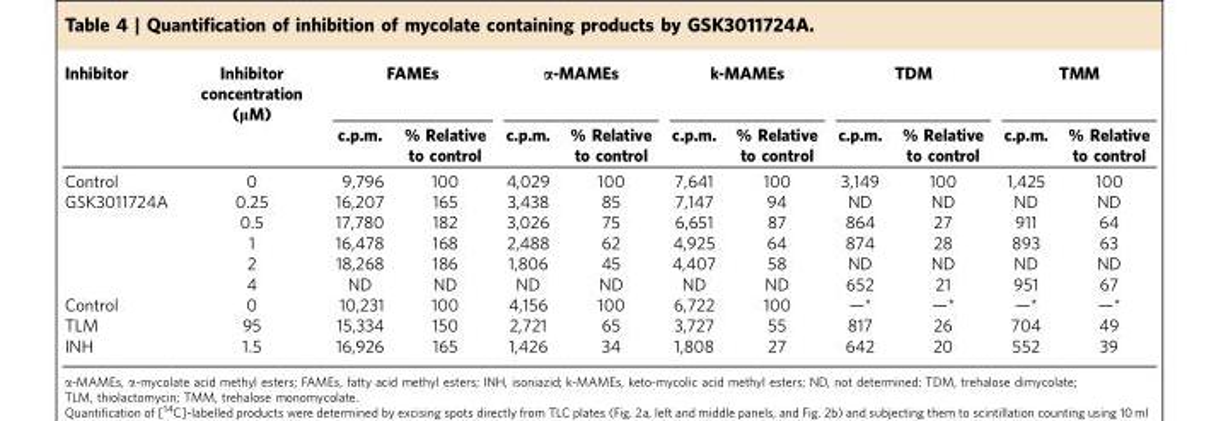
<table><thead><tr><td rowspan="2">Inhibitor</td><td rowspan="2">Inhibitor concentration (μM)</td><td colspan="2">FAMEs</td><td colspan="2">α-MAMEs</td><td colspan="2">k-MAMEs</td><td colspan="2">TDM</td><td colspan="2">TMM</td></tr><tr><td>c.p.m.</td><td>% Relative to control</td><td>c.p.m.</td><td>% Relative to control</td><td>c.p.m.</td><td>% Relative to control</td><td>c.p.m.</td><td>% Relative to control</td><td>c.p.m.</td><td>% Relative to control</td></tr></thead><tbody><tr><td>Control</td><td>0</td><td>9,796</td><td>100</td><td>4,029</td><td>100</td><td>7,641</td><td>100</td><td>3,149</td><td>100</td><td>1,425</td><td>100</td></tr><tr><td rowspan="5">GSK3011724A</td><td>0.25</td><td>16,207</td><td>165</td><td>3,438</td><td>85</td><td>7,147</td><td>94</td><td>ND</td><td>ND</td><td>ND</td><td>ND</td></tr><tr><td>0.5</td><td>17,780</td><td>182</td><td>3,026</td><td>75</td><td>6,651</td><td>87</td><td>864</td><td>27</td><td>911</td><td>64</td></tr><tr><td>1</td><td>16,478</td><td>168</td><td>2,488</td><td>62</td><td>4,925</td><td>64</td><td>874</td><td>28</td><td>893</td><td>63</td></tr><tr><td>2</td><td>18,268</td><td>186</td><td>1,806</td><td>45</td><td>4,407</td><td>58</td><td>ND</td><td>ND</td><td>ND</td><td>ND</td></tr><tr><td>4</td><td>ND</td><td>ND</td><td>ND</td><td>ND</td><td>ND</td><td>ND</td><td>652</td><td>21</td><td>951</td><td>67</td></tr><tr><td>Control</td><td>0</td><td>10,231</td><td>100</td><td>4,156</td><td>100</td><td>6,722</td><td>100</td><td>—*</td><td>—*</td><td>—*</td><td>—*</td></tr><tr><td>TLM</td><td>95</td><td>15,334</td><td>150</td><td>2,721</td><td>65</td><td>3,727</td><td>55</td><td>817</td><td>26</td><td>704</td><td>49</td></tr><tr><td>INH</td><td>1.5</td><td>16,926</td><td>165</td><td>1,426</td><td>34</td><td>1,808</td><td>27</td><td>642</td><td>20</td><td>552</td><td>39</td></tr></tbody></table>